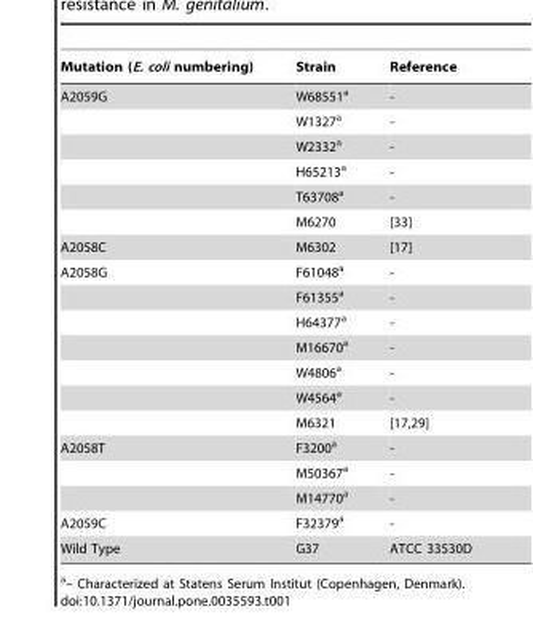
<table><thead><tr><td>Mutation (E. coli numbering)</td><td>Strain</td><td>Reference</td></tr></thead><tbody><tr><td rowspan="6">A2059G</td><td>W68551<sup>a</sup></td><td>-</td></tr><tr><td>W1327<sup>a</sup></td><td>-</td></tr><tr><td>W2332<sup>a</sup></td><td>-</td></tr><tr><td>H65213<sup>a</sup></td><td>-</td></tr><tr><td>T63708<sup>a</sup></td><td>-</td></tr><tr><td>M6270</td><td>[33]</td></tr><tr><td>A2058C</td><td>M6302</td><td>[17]</td></tr><tr><td rowspan="7">A2058G</td><td>F61048<sup>a</sup></td><td>-</td></tr><tr><td>F61355<sup>a</sup></td><td>-</td></tr><tr><td>H64377<sup>a</sup></td><td>-</td></tr><tr><td>M16670<sup>a</sup></td><td>-</td></tr><tr><td>W4806<sup>a</sup></td><td>-</td></tr><tr><td>W4564<sup>a</sup></td><td>-</td></tr><tr><td>M6321</td><td>[17,29]</td></tr><tr><td rowspan="3">A2058T</td><td>F3200<sup>a</sup></td><td>-</td></tr><tr><td>M50367<sup>a</sup></td><td>-</td></tr><tr><td>M14770<sup>a</sup></td><td>-</td></tr><tr><td>A2059C</td><td>F32379<sup>a</sup></td><td>-</td></tr><tr><td>Wild Type</td><td>G37</td><td>ATCC 33530D</td></tr></tbody></table>